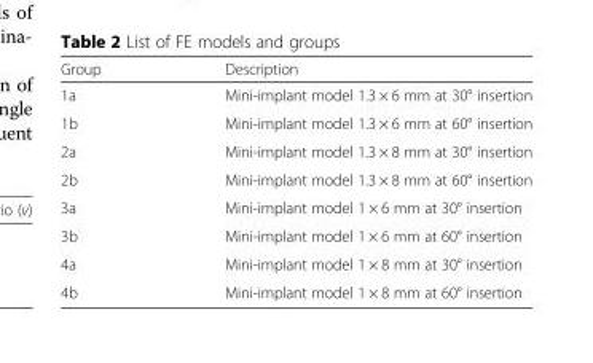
<table><thead><tr><td>Group</td><td>Description</td></tr></thead><tbody><tr><td>1a</td><td>Mini-implant model 1.3 × 6 mm at 30° insertion</td></tr><tr><td>1b</td><td>Mini-implant model 1.3 × 6 mm at 60° insertion</td></tr><tr><td>2a</td><td>Mini-implant model 1.3 × 8 mm at 30° insertion</td></tr><tr><td>2b</td><td>Mini-implant model 1.3 × 8 mm at 60° insertion</td></tr><tr><td>3a</td><td>Mini-implant model 1 × 6 mm at 30° insertion</td></tr><tr><td>3b</td><td>Mini-implant model 1 × 6 mm at 60° insertion</td></tr><tr><td>4a</td><td>Mini-implant model 1 × 8 mm at 30° insertion</td></tr><tr><td>4b</td><td>Mini-implant model 1 × 8 mm at 60° insertion</td></tr></tbody></table>